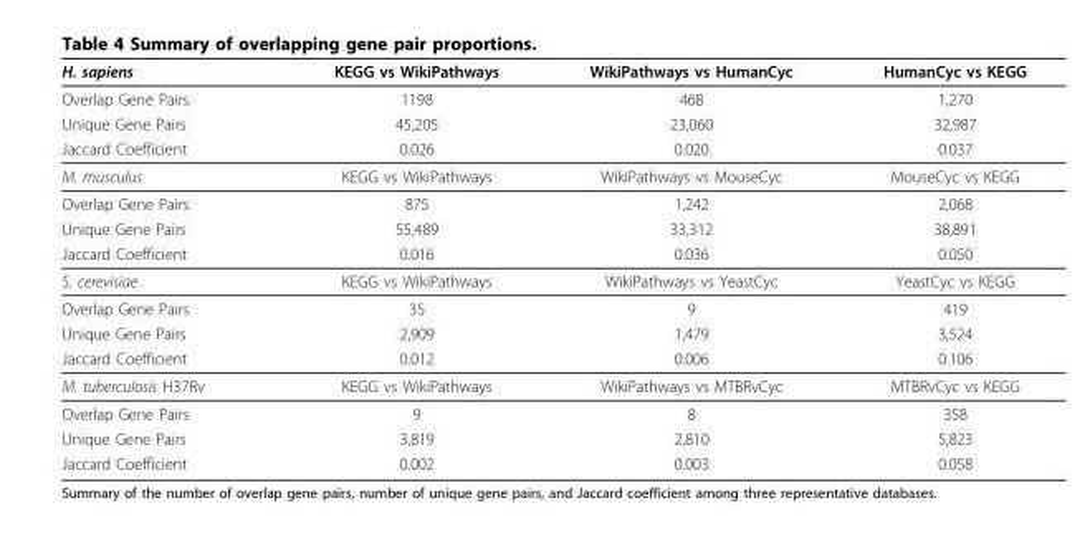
<table><thead><tr><td>H. sapiens</td><td>KEGG vs WikiPathways</td><td>WikiPathways vs HumanCyc</td><td>HumanCyc vs KEGG</td></tr></thead><tbody><tr><td>Overlap Gene Pairs</td><td>1198</td><td>468</td><td>1,270</td></tr><tr><td>Unique Gene Pairs</td><td>45,205</td><td>23,060</td><td>32,987</td></tr><tr><td>Jaccard Coefficient</td><td>0.026</td><td>0.020</td><td>0.037</td></tr><tr><td>M. musculus</td><td>KEGG vs WikiPathways</td><td>WikiPathways vs MouseCyc</td><td>MouseCyc vs KEGG</td></tr><tr><td>Overlap Gene Pairs</td><td>875</td><td>1,242</td><td>2,068</td></tr><tr><td>Unique Gene Pairs</td><td>55,489</td><td>33,312</td><td>38,891</td></tr><tr><td>Jaccard Coefficient</td><td>0.016</td><td>0.036</td><td>0.050</td></tr><tr><td>S. cerevisiae</td><td>KEGG vs WikiPathways</td><td>WikiPathways vs YeastCyc</td><td>YeastCyc vs KEGG</td></tr><tr><td>Overlap Gene Pairs</td><td>35</td><td>9</td><td>419</td></tr><tr><td>Unique Gene Pairs</td><td>2,909</td><td>1,479</td><td>3,524</td></tr><tr><td>Jaccard Coefficient</td><td>0.012</td><td>0.006</td><td>0.106</td></tr><tr><td>M. tuberculosis H37Rv</td><td>KEGG vs WikiPathways</td><td>WikiPathways vs MTBRvCyc</td><td>MTBRvCyc vs KEGG</td></tr><tr><td>Overlap Gene Pairs</td><td>9</td><td>8</td><td>358</td></tr><tr><td>Unique Gene Pairs</td><td>3,819</td><td>2,810</td><td>5,823</td></tr><tr><td>Jaccard Coefficient</td><td>0.002</td><td>0.003</td><td>0.058</td></tr></tbody></table>